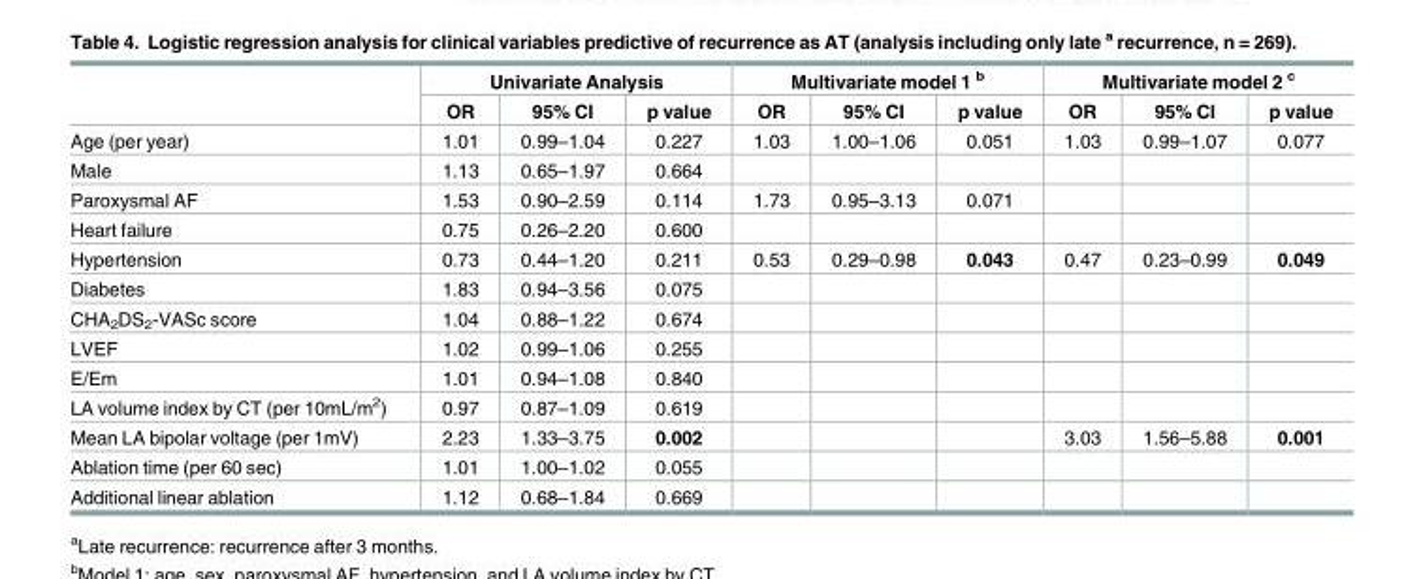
<table><thead><tr><td rowspan="2"></td><td colspan="3">Univariate Analysis</td><td colspan="3">Multivariate model 1 <sup>b</sup></td><td colspan="3">Multivariate model 2 <sup>c</sup></td></tr><tr><td>OR</td><td>95% CI</td><td>p value</td><td>OR</td><td>95% CI</td><td>p value</td><td>OR</td><td>95% CI</td><td>p value</td></tr></thead><tbody><tr><td>Age (per year)</td><td>1.01</td><td>0.99–1.04</td><td>0.227</td><td>1.03</td><td>1.00–1.06</td><td>0.051</td><td>1.03</td><td>0.99–1.07</td><td>0.077</td></tr><tr><td>Male</td><td>1.13</td><td>0.65–1.97</td><td>0.664</td><td></td><td></td><td></td><td></td><td></td><td></td></tr><tr><td>Paroxysmal AF</td><td>1.53</td><td>0.90–2.59</td><td>0.114</td><td>1.73</td><td>0.95–3.13</td><td>0.071</td><td></td><td></td><td></td></tr><tr><td>Heart failure</td><td>0.75</td><td>0.26–2.20</td><td>0.600</td><td></td><td></td><td></td><td></td><td></td><td></td></tr><tr><td>Hypertension</td><td>0.73</td><td>0.44–1.20</td><td>0.211</td><td>0.53</td><td>0.29–0.98</td><td>0.043</td><td>0.47</td><td>0.23–0.99</td><td>0.049</td></tr><tr><td>Diabetes</td><td>1.83</td><td>0.94–3.56</td><td>0.075</td><td></td><td></td><td></td><td></td><td></td><td></td></tr><tr><td>CHA<sub>2</sub>DS<sub>2</sub>-VASc score</td><td>1.04</td><td>0.88–1.22</td><td>0.674</td><td></td><td></td><td></td><td></td><td></td><td></td></tr><tr><td>LVEF</td><td>1.02</td><td>0.99–1.06</td><td>0.255</td><td></td><td></td><td></td><td></td><td></td><td></td></tr><tr><td>E/Em</td><td>1.01</td><td>0.94–1.08</td><td>0.840</td><td></td><td></td><td></td><td></td><td></td><td></td></tr><tr><td>LA volume index by CT (per 10mL/m<sup>2</sup>)</td><td>0.97</td><td>0.87–1.09</td><td>0.619</td><td></td><td></td><td></td><td></td><td></td><td></td></tr><tr><td>Mean LA bipolar voltage (per 1mV)</td><td>2.23</td><td>1.33–3.75</td><td>0.002</td><td></td><td></td><td></td><td>3.03</td><td>1.56–5.88</td><td>0.001</td></tr><tr><td>Ablation time (per 60 sec)</td><td>1.01</td><td>1.00–1.02</td><td>0.055</td><td></td><td></td><td></td><td></td><td></td><td></td></tr><tr><td>Additional linear ablation</td><td>1.12</td><td>0.68–1.84</td><td>0.669</td><td></td><td></td><td></td><td></td><td></td><td></td></tr></tbody></table>